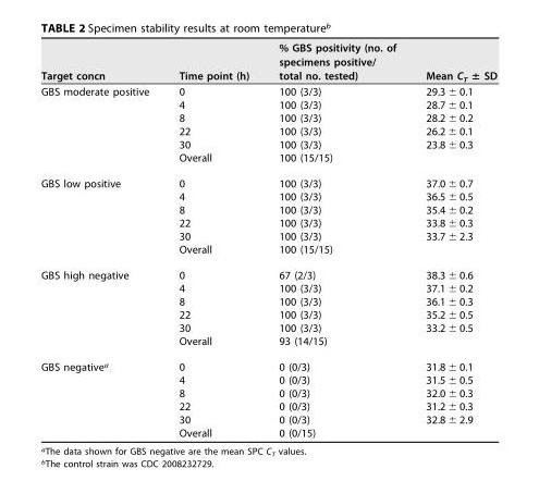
<table><thead><tr><td>Target concn</td><td>Time point (h)</td><td>% GBS positivity (no. of specimens positive/ total no. tested)</td><td>Mean C<sub>T</sub> ± SD</td></tr></thead><tbody><tr><td rowspan="6">GBS moderate positive</td><td>0</td><td>100 (3/3)</td><td>29.3 ± 0.1</td></tr><tr><td>4</td><td>100 (3/3)</td><td>28.7 ± 0.1</td></tr><tr><td>8</td><td>100 (3/3)</td><td>28.2 ± 0.2</td></tr><tr><td>22</td><td>100 (3/3)</td><td>26.2 ± 0.1</td></tr><tr><td>30</td><td>100 (3/3)</td><td>23.8 ± 0.3</td></tr><tr><td>Overall</td><td>100 (15/15)</td><td></td></tr><tr><td rowspan="6">GBS low positive</td><td>0</td><td>100 (3/3)</td><td>37.0 ± 0.7</td></tr><tr><td>4</td><td>100 (3/3)</td><td>36.5 ± 0.5</td></tr><tr><td>8</td><td>100 (3/3)</td><td>35.4 ± 0.2</td></tr><tr><td>22</td><td>100 (3/3)</td><td>33.8 ± 0.3</td></tr><tr><td>30</td><td>100 (3/3)</td><td>33.7 ± 2.3</td></tr><tr><td>Overall</td><td>100 (15/15)</td><td></td></tr><tr><td rowspan="6">GBS high negative</td><td>0</td><td>67 (2/3)</td><td>38.3 ± 0.6</td></tr><tr><td>4</td><td>100 (3/3)</td><td>37.1 ± 0.2</td></tr><tr><td>8</td><td>100 (3/3)</td><td>36.1 ± 0.3</td></tr><tr><td>22</td><td>100 (3/3)</td><td>35.2 ± 0.5</td></tr><tr><td>30</td><td>100 (3/3)</td><td>33.2 ± 0.5</td></tr><tr><td>Overall</td><td>93 (14/15)</td><td></td></tr><tr><td rowspan="6">GBS negative<sup>a</sup></td><td>0</td><td>0 (0/3)</td><td>31.8 ± 0.1</td></tr><tr><td>4</td><td>0 (0/3)</td><td>31.5 ± 0.5</td></tr><tr><td>8</td><td>0 (0/3)</td><td>32.0 ± 0.3</td></tr><tr><td>22</td><td>0 (0/3)</td><td>31.2 ± 0.3</td></tr><tr><td>30</td><td>0 (0/3)</td><td>32.8 ± 2.9</td></tr><tr><td>Overall</td><td>0 (0/15)</td><td></td></tr></tbody></table>